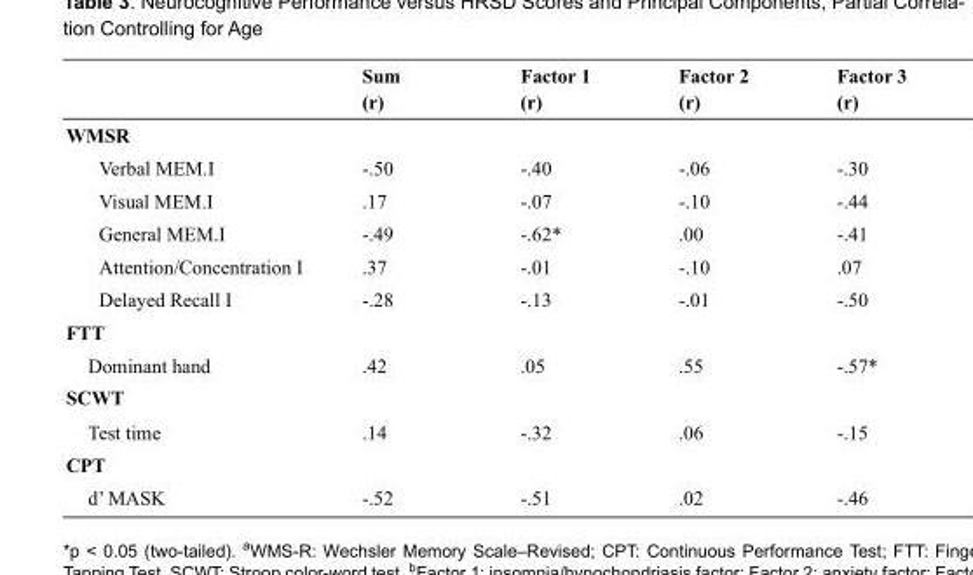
<table><thead><tr><td rowspan="2"></td><td rowspan="2">Sum (r)</td><td rowspan="2">Factor 1 (r)</td><td rowspan="2">Factor 2 (r)</td><td rowspan="2">Factor 3 (r)</td></tr><tr></tr></thead><tbody><tr><td colspan="5">WMSR</td></tr><tr><td>Verbal MEM.I</td><td>-.50</td><td>-.40</td><td>-.06</td><td>-.30</td></tr><tr><td>Visual MEM.I</td><td>.17</td><td>-.07</td><td>-.10</td><td>-.44</td></tr><tr><td>General MEM.I</td><td>-.49</td><td>-.62*</td><td>.00</td><td>-.41</td></tr><tr><td>Attention/Concentration I</td><td>.37</td><td>-.01</td><td>-.10</td><td>.07</td></tr><tr><td>Delayed Recall I</td><td>-.28</td><td>-.13</td><td>-.01</td><td>-.50</td></tr><tr><td colspan="5">FTT</td></tr><tr><td>Dominant hand</td><td>.42</td><td>.05</td><td>.55</td><td>-.57*</td></tr><tr><td colspan="5">SCWT</td></tr><tr><td>Test time</td><td>.14</td><td>-.32</td><td>.06</td><td>-.15</td></tr><tr><td colspan="5">CPT</td></tr><tr><td>d’ MASK</td><td>-.52</td><td>-.51</td><td>.02</td><td>-.46</td></tr></tbody></table>